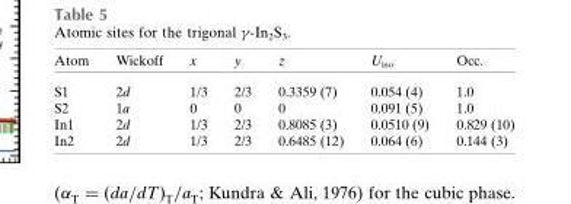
<table><thead><tr><td>Atom</td><td>Wickoff</td><td>x</td><td>y</td><td>z</td><td>U<sub>iso</sub></td><td>Occ.</td></tr></thead><tbody><tr><td>S1</td><td>2d</td><td>1/3</td><td>2/3</td><td>0.3359 (7)</td><td>0.054 (4)</td><td>1.0</td></tr><tr><td>S2</td><td>1a</td><td>0</td><td>0</td><td>0</td><td>0.091 (5)</td><td>1.0</td></tr><tr><td>In1</td><td>2d</td><td>1/3</td><td>2/3</td><td>0.8085 (3)</td><td>0.0510 (9)</td><td>0.829 (10)</td></tr><tr><td>In2</td><td>2d</td><td>1/3</td><td>2/3</td><td>0.6485 (12)</td><td>0.064 (6)</td><td>0.144 (3)</td></tr></tbody></table>